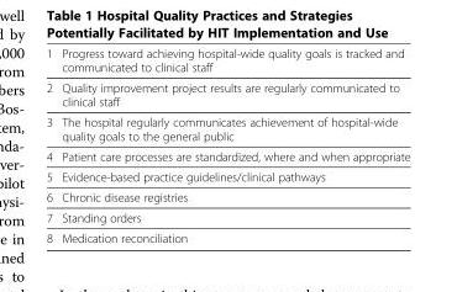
<table><tbody><tr><td>1</td><td>Progress toward achieving hospital-wide quality goals is tracked and communicated to clinical staff</td></tr><tr><td>2</td><td>Quality improvement project results are regularly communicated to clinical staff</td></tr><tr><td>3</td><td>The hospital regularly communicates achievement of hospital-wide quality goals to the general public</td></tr><tr><td>4</td><td>Patient care processes are standardized, where and when appropriate</td></tr><tr><td>5</td><td>Evidence-based practice guidelines/clinical pathways</td></tr><tr><td>6</td><td>Chronic disease registries</td></tr><tr><td>7</td><td>Standing orders</td></tr><tr><td>8</td><td>Medication reconciliation</td></tr></tbody></table>